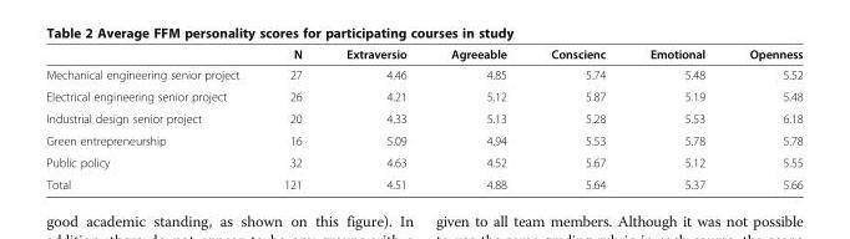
<table><thead><tr><td></td><td>N</td><td>Extraversio</td><td>Agreeable</td><td>Conscienc</td><td>Emotional</td><td>Openness</td></tr></thead><tbody><tr><td>Mechanical engineering senior project</td><td>27</td><td>4.46</td><td>4.85</td><td>5.74</td><td>5.48</td><td>5.52</td></tr><tr><td>Electrical engineering senior project</td><td>26</td><td>4.21</td><td>5.12</td><td>5.87</td><td>5.19</td><td>5.48</td></tr><tr><td>Industrial design senior project</td><td>20</td><td>4.33</td><td>5.13</td><td>5.28</td><td>5.53</td><td>6.18</td></tr><tr><td>Green entrepreneurship</td><td>16</td><td>5.09</td><td>4.94</td><td>5.53</td><td>5.78</td><td>5.78</td></tr><tr><td>Public policy</td><td>32</td><td>4.63</td><td>4.52</td><td>5.67</td><td>5.12</td><td>5.55</td></tr><tr><td>Total</td><td>121</td><td>4.51</td><td>4.88</td><td>5.64</td><td>5.37</td><td>5.66</td></tr></tbody></table>